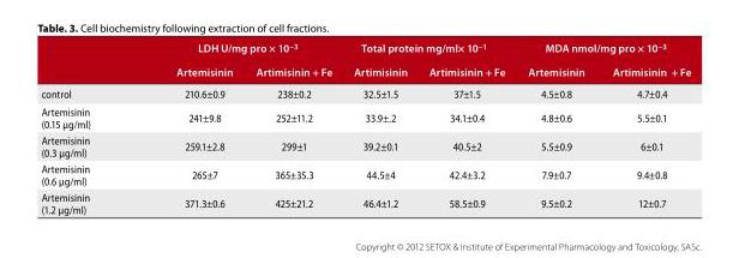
<table><thead><tr><td rowspan="2"></td><td colspan="2">LDH U/mg pro × 10<sup>–3</sup></td><td colspan="2">Total protein mg/ml× 10<sup>–1</sup></td><td colspan="2">MDA nmol/mg pro × 10<sup>–3</sup></td></tr><tr><td>Artemisinin</td><td>Artimisinin + Fe</td><td>Artimisinin</td><td>Artimisinin + Fe</td><td>Artemisinin</td><td>Artimisinin + Fe</td></tr></thead><tbody><tr><td>control</td><td>210.6±0.9</td><td>238±0.2</td><td>32.5±1.5</td><td>37±1.5</td><td>4.5±0.8</td><td>4.7±0.4</td></tr><tr><td>Artemisinin (0.15 μg/ml)</td><td>241±9.8</td><td>252±11.2</td><td>33.9±.2</td><td>34.1±0.4</td><td>4.8±0.6</td><td>5.5±0.1</td></tr><tr><td>Artemisinin (0.3 μg/ml)</td><td>259.1±2.8</td><td>299±1</td><td>39.2±0.1</td><td>40.5±2</td><td>5.5±0.9</td><td>6±0.1</td></tr><tr><td>Artemisinin (0.6 μg/ml)</td><td>265±7</td><td>365±35.3</td><td>44.5±4</td><td>42.4±3.2</td><td>7.9±0.7</td><td>9.4±0.8</td></tr><tr><td>Artemisinin (1.2 μg/ml)</td><td>371.3±0.6</td><td>425±21.2</td><td>46.4±1.2</td><td>58.5±0.9</td><td>9.5±0.2</td><td>12±0.7</td></tr></tbody></table>